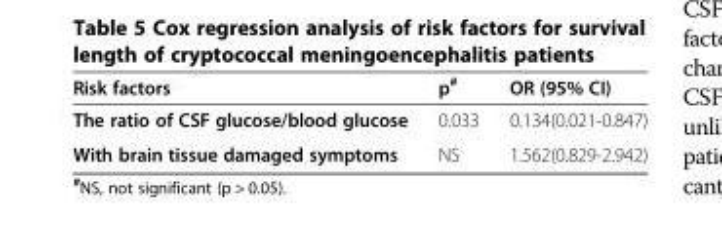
<table><thead><tr><td>Risk factors</td><td>p<sup>#</sup></td><td>OR (95% CI)</td></tr></thead><tbody><tr><td>The ratio of CSF glucose/blood glucose</td><td>0.033</td><td>0.134(0.021-0.847)</td></tr><tr><td>With brain tissue damaged symptoms</td><td>NS</td><td>1.562(0.829-2.942)</td></tr></tbody></table>